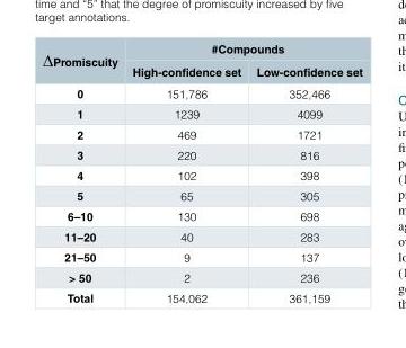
<table><thead><tr><td rowspan="2">∆Promiscuity</td><td colspan="2">#Compounds</td></tr><tr><td>High-confidence set</td><td>Low-confidence set</td></tr></thead><tbody><tr><td>0</td><td>151,786</td><td>352,466</td></tr><tr><td>1</td><td>1239</td><td>4099</td></tr><tr><td>2</td><td>469</td><td>1721</td></tr><tr><td>3</td><td>220</td><td>816</td></tr><tr><td>4</td><td>102</td><td>398</td></tr><tr><td>5</td><td>65</td><td>305</td></tr><tr><td>6–10</td><td>130</td><td>698</td></tr><tr><td>11–20</td><td>40</td><td>283</td></tr><tr><td>21–50</td><td>9</td><td>137</td></tr><tr><td>&gt; 50</td><td>2</td><td>236</td></tr><tr><td>Total</td><td>154,062</td><td>361,159</td></tr></tbody></table>